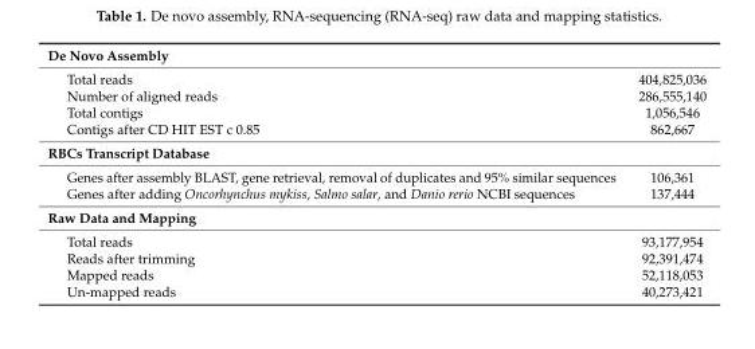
<table><tbody><tr><td colspan="2">De Novo Assembly</td></tr><tr><td>Total reads</td><td>404,825,036</td></tr><tr><td>Number of aligned reads</td><td>286,555,140</td></tr><tr><td>Total contigs</td><td>1,056,546</td></tr><tr><td>Contigs after CD HIT EST c 0.85</td><td>862,667</td></tr><tr><td colspan="2">RBCs Transcript Database</td></tr><tr><td>Genes after assembly BLAST, gene retrieval, removal of duplicates and 95% similar sequences</td><td>106,361</td></tr><tr><td>Genes after adding Oncorhynchus mykiss, Salmo salar, and Danio rerio NCBI sequences</td><td>137,444</td></tr><tr><td colspan="2">Raw Data and Mapping</td></tr><tr><td>Total reads</td><td>93,177,954</td></tr><tr><td>Reads after trimming</td><td>92,391,474</td></tr><tr><td>Mapped reads</td><td>52,118,053</td></tr><tr><td>Un-mapped reads</td><td>40,273,421</td></tr></tbody></table>